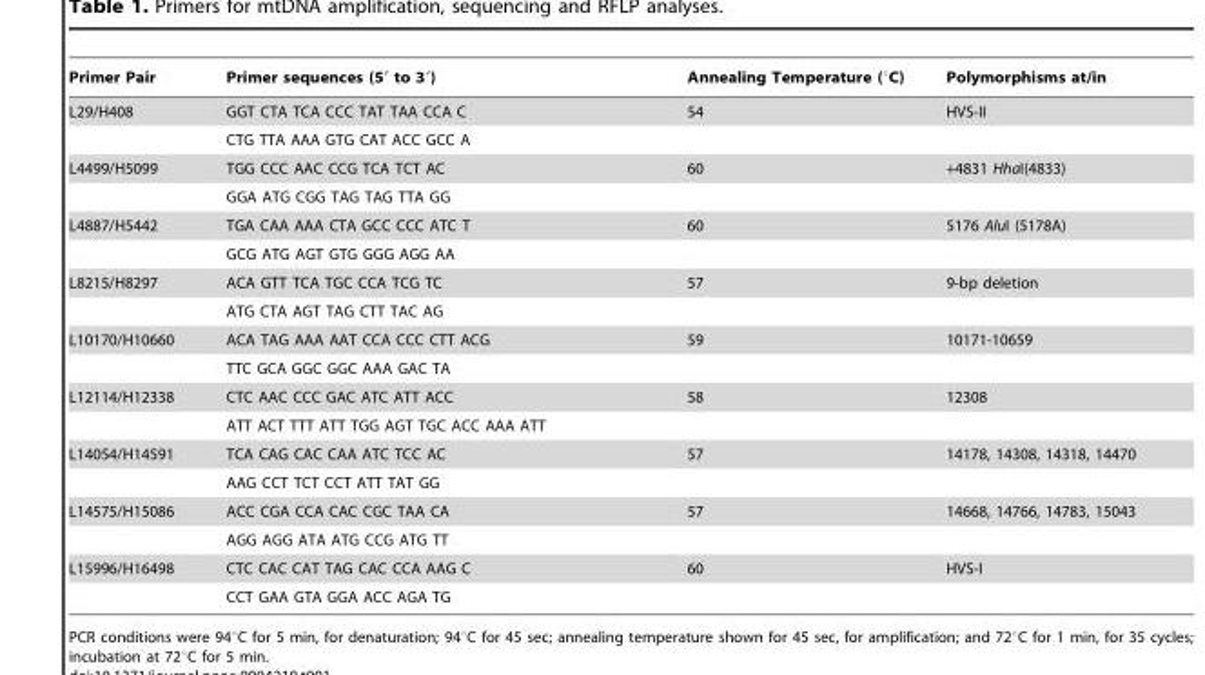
<table><thead><tr><td>Primer Pair</td><td>Primer sequences (5′ to 3′)</td><td>Annealing Temperature (°C)</td><td>Polymorphisms at/in</td></tr></thead><tbody><tr><td rowspan="2">L29/H408</td><td>GGT CTA TCA CCC TAT TAA CCA C</td><td>54</td><td>HVS-II</td></tr><tr><td>CTG TTA AAA GTG CAT ACC GCC A</td><td></td><td></td></tr><tr><td rowspan="2">L4499/H5099</td><td>TGG CCC AAC CCG TCA TCT AC</td><td>60</td><td>+4831 HhaI(4833)</td></tr><tr><td>GGA ATG CGG TAG TAG TTA GG</td><td></td><td></td></tr><tr><td rowspan="2">L4887/H5442</td><td>TGA CAA AAA CTA GCC CCC ATC T</td><td>60</td><td>5176 AluI (5178A)</td></tr><tr><td>GCG ATG AGT GTG GGG AGG AA</td><td></td><td></td></tr><tr><td rowspan="2">L8215/H8297</td><td>ACA GTT TCA TGC CCA TCG TC</td><td>57</td><td>9-bp deletion</td></tr><tr><td>ATG CTA AGT TAG CTT TAC AG</td><td></td><td></td></tr><tr><td rowspan="2">L10170/H10660</td><td>ACA TAG AAA AAT CCA CCC CTT ACG</td><td>59</td><td>10171-10659</td></tr><tr><td>TTC GCA GGC GGC AAA GAC TA</td><td></td><td></td></tr><tr><td rowspan="2">L12114/H12338</td><td>CTC AAC CCC GAC ATC ATT ACC</td><td>58</td><td>12308</td></tr><tr><td>ATT ACT TTT ATT TGG AGT TGC ACC AAA ATT</td><td></td><td></td></tr><tr><td rowspan="2">L14054/H14591</td><td>TCA CAG CAC CAA ATC TCC AC</td><td>57</td><td>14178, 14308, 14318, 14470</td></tr><tr><td>AAG CCT TCT CCT ATT TAT GG</td><td></td><td></td></tr><tr><td rowspan="2">L14575/H15086</td><td>ACC CGA CCA CAC CGC TAA CA</td><td>57</td><td>14668, 14766, 14783, 15043</td></tr><tr><td>AGG AGG ATA ATG CCG ATG TT</td><td></td><td></td></tr><tr><td rowspan="2">L15996/H16498</td><td>CTC CAC CAT TAG CAC CCA AAG C</td><td>60</td><td>HVS-I</td></tr><tr><td>CCT GAA GTA GGA ACC AGA TG</td><td></td><td></td></tr></tbody></table>